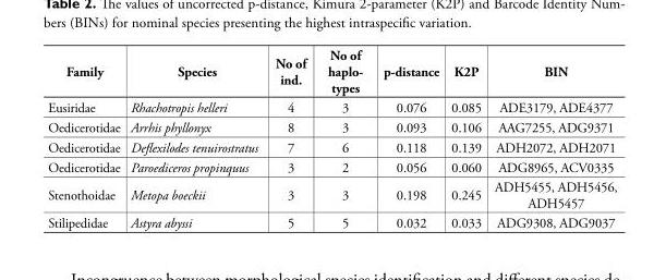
<table><thead><tr><td>Family</td><td>Species</td><td>No of ind.</td><td>No of haplo- types</td><td>p-distance</td><td>K2P</td><td>BIN</td></tr></thead><tbody><tr><td>Eusiridae</td><td>Rhachotropis helleri</td><td>4</td><td>3</td><td>0.076</td><td>0.085</td><td>ADE3179, ADE4377</td></tr><tr><td>Oedicerotidae</td><td>Arrhis phyllonyx</td><td>8</td><td>3</td><td>0.093</td><td>0.106</td><td>AAG7255, ADG9371</td></tr><tr><td>Oedicerotidae</td><td>Deflexilodes tenuirostratus</td><td>7</td><td>6</td><td>0.118</td><td>0.139</td><td>ADH2072, ADH2071</td></tr><tr><td>Oedicerotidae</td><td>Paroediceros propinquus</td><td>3</td><td>2</td><td>0.056</td><td>0.060</td><td>ADG8965, ACV0335</td></tr><tr><td>Stenothoidae</td><td>Metopa boeckii</td><td>3</td><td>3</td><td>0.198</td><td>0.245</td><td>ADH5455, ADH5456, ADH5457</td></tr><tr><td>Stilipedidae</td><td>Astyra abyssi</td><td>5</td><td>5</td><td>0.032</td><td>0.033</td><td>ADG9308, ADG9037</td></tr></tbody></table>